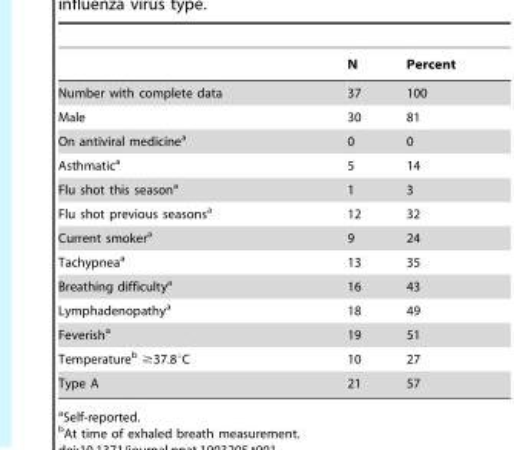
<table><thead><tr><td></td><td>N</td><td>Percent</td></tr></thead><tbody><tr><td>Number with complete data</td><td>37</td><td>100</td></tr><tr><td>Male</td><td>30</td><td>81</td></tr><tr><td>On antiviral medicine<sup>a</sup></td><td>0</td><td>0</td></tr><tr><td>Asthmatic<sup>a</sup></td><td>5</td><td>14</td></tr><tr><td>Flu shot this season<sup>a</sup></td><td>1</td><td>3</td></tr><tr><td>Flu shot previous seasons<sup>a</sup></td><td>12</td><td>32</td></tr><tr><td>Current smoker<sup>a</sup></td><td>9</td><td>24</td></tr><tr><td>Tachypnea<sup>a</sup></td><td>13</td><td>35</td></tr><tr><td>Breathing difficulty<sup>a</sup></td><td>16</td><td>43</td></tr><tr><td>Lymphadenopathy<sup>a</sup></td><td>18</td><td>49</td></tr><tr><td>Feverish<sup>a</sup></td><td>19</td><td>51</td></tr><tr><td>Temperature<sup>b</sup> ≥37.8°C</td><td>10</td><td>27</td></tr><tr><td>Type A</td><td>21</td><td>57</td></tr></tbody></table>